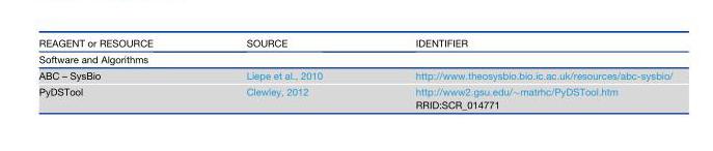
<table><thead><tr><td>REAGENT or RESOURCE</td><td>SOURCE</td><td>IDENTIFIER</td></tr></thead><tbody><tr><td colspan="3">Software and Algorithms</td></tr><tr><td>ABC – SysBio</td><td>Liepe et al., 2010</td><td>http://www.theosysbio.bio.ic.ac.uk/resources/abc-sysbio/</td></tr><tr><td>PyDSTool</td><td>Clewley, 2012</td><td>http://www2.gsu.edu/∼matrhc/PyDSTool.htm RRID:SCR_014771</td></tr></tbody></table>